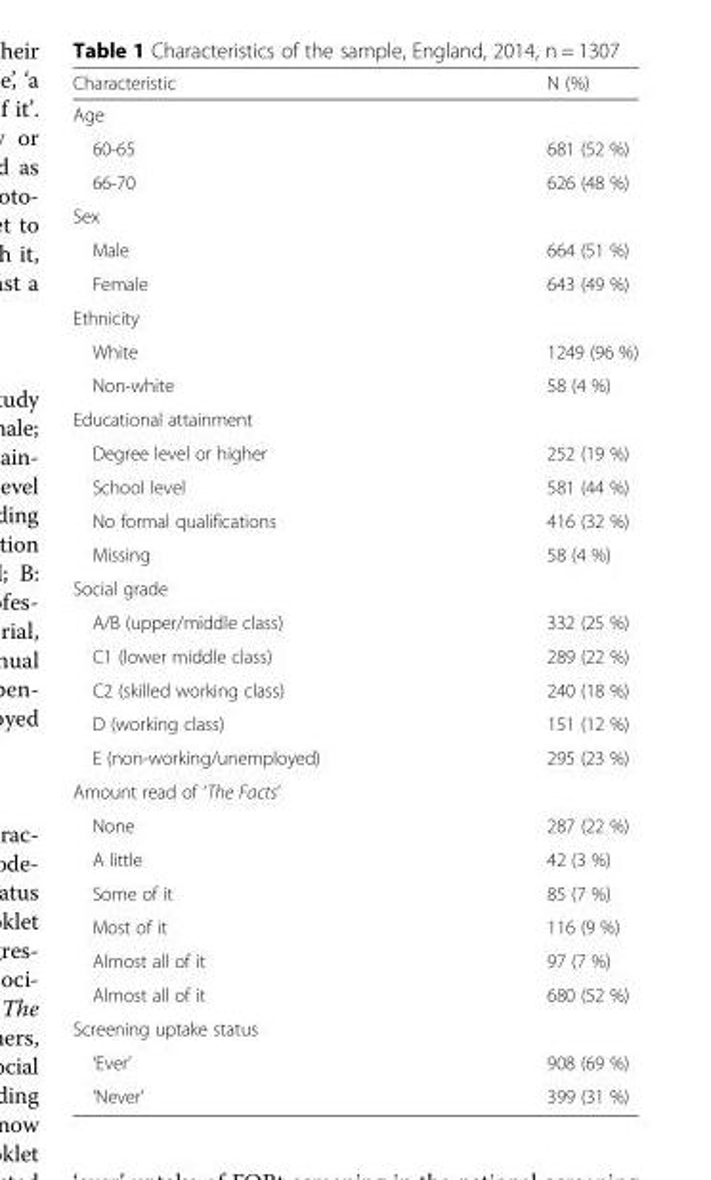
<table><thead><tr><td>Characteristic</td><td>N (%)</td></tr></thead><tbody><tr><td colspan="2">Age</td></tr><tr><td>60-65</td><td>681 (52 %)</td></tr><tr><td>66-70</td><td>626 (48 %)</td></tr><tr><td colspan="2">Sex</td></tr><tr><td>Male</td><td>664 (51 %)</td></tr><tr><td>Female</td><td>643 (49 %)</td></tr><tr><td colspan="2">Ethnicity</td></tr><tr><td>White</td><td>1249 (96 %)</td></tr><tr><td>Non-white</td><td>58 (4 %)</td></tr><tr><td colspan="2">Educational attainment</td></tr><tr><td>Degree level or higher</td><td>252 (19 %)</td></tr><tr><td>School level</td><td>581 (44 %)</td></tr><tr><td>No formal qualifications</td><td>416 (32 %)</td></tr><tr><td>Missing</td><td>58 (4 %)</td></tr><tr><td colspan="2">Social grade</td></tr><tr><td>A/B (upper/middle class)</td><td>332 (25 %)</td></tr><tr><td>C1 (lower middle class)</td><td>289 (22 %)</td></tr><tr><td>C2 (skilled working class)</td><td>240 (18 %)</td></tr><tr><td>D (working class)</td><td>151 (12 %)</td></tr><tr><td>E (non-working/unemployed)</td><td>295 (23 %)</td></tr><tr><td colspan="2">Amount read of ‘The Facts’</td></tr><tr><td>None</td><td>287 (22 %)</td></tr><tr><td>A little</td><td>42 (3 %)</td></tr><tr><td>Some of it</td><td>85 (7 %)</td></tr><tr><td>Most of it</td><td>116 (9 %)</td></tr><tr><td>Almost all of it</td><td>97 (7 %)</td></tr><tr><td>Almost all of it</td><td>680 (52 %)</td></tr><tr><td colspan="2">Screening uptake status</td></tr><tr><td>‘Ever’</td><td>908 (69 %)</td></tr><tr><td>‘Never’</td><td>399 (31 %)</td></tr></tbody></table>